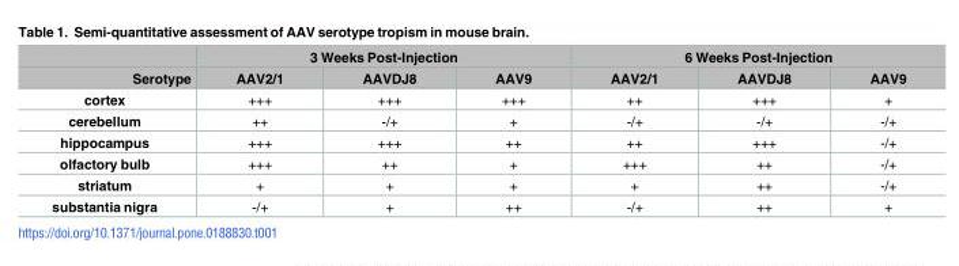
<table><thead><tr><td rowspan="2">Serotype</td><td colspan="3">3 Weeks Post-Injection</td><td colspan="3">6 Weeks Post-Injection</td></tr><tr><td>AAV2/1</td><td>AAVDJ8</td><td>AAV9</td><td>AAV2/1</td><td>AAVDJ8</td><td>AAV9</td></tr></thead><tbody><tr><td>cortex</td><td>+++</td><td>+++</td><td>+++</td><td>++</td><td>+++</td><td>+</td></tr><tr><td>cerebellum</td><td>++</td><td>-/+</td><td>+</td><td>-/+</td><td>-/+</td><td>-/+</td></tr><tr><td>hippocampus</td><td>+++</td><td>+++</td><td>++</td><td>++</td><td>+++</td><td>-/+</td></tr><tr><td>olfactory bulb</td><td>+++</td><td>++</td><td>+</td><td>+++</td><td>++</td><td>-/+</td></tr><tr><td>striatum</td><td>+</td><td>+</td><td>+</td><td>+</td><td>++</td><td>-/+</td></tr><tr><td>substantia nigra</td><td>-/+</td><td>+</td><td>++</td><td>-/+</td><td>++</td><td>+</td></tr></tbody></table>